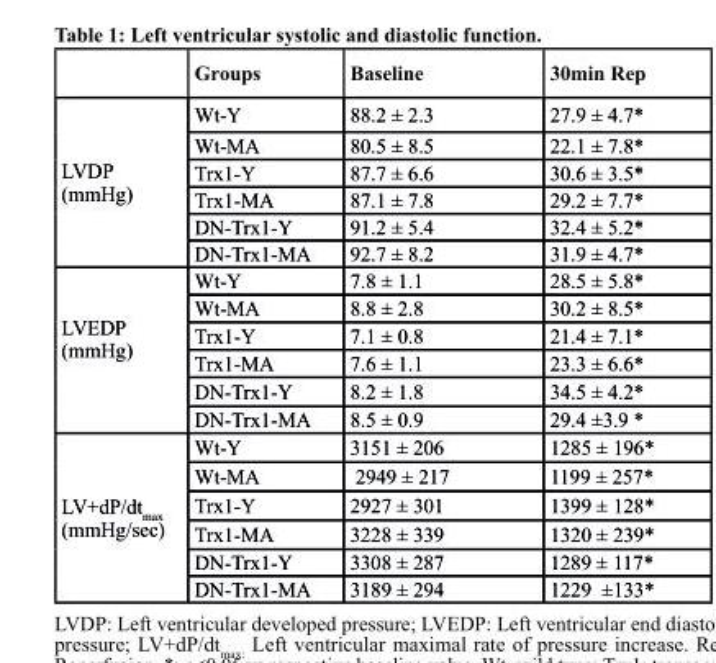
<table><thead><tr><td></td><td>Groups</td><td>baseline</td><td>30min rep</td></tr></thead><tbody><tr><td rowspan="6">LVDP (mmHg)</td><td>Wt-Y</td><td>88.2 ± 2.3</td><td>27.9 ± 4.7*</td></tr><tr><td>Wt-MA</td><td>80.5 ± 8.5</td><td>22.1 ± 7.8*</td></tr><tr><td>Trx1-Y</td><td>87.7 ± 6.6</td><td>30.6 ± 3.5*</td></tr><tr><td>Trx1-MA</td><td>87.1 ± 7.8</td><td>29.2 ± 7.7*</td></tr><tr><td>DN-Trx1-Y</td><td>91.2 ± 5.4</td><td>32.4 ± 5.2*</td></tr><tr><td>DN-Trx1-MA</td><td>92.7 ± 8.2</td><td>31.9 ± 4.7*</td></tr><tr><td rowspan="6">LVEDP (mmHg)</td><td>Wt-Y</td><td>7.8 ± 1.1</td><td>28.5 ± 5.8*</td></tr><tr><td>Wt-MA</td><td>8.8 ± 2.8</td><td>30.2 ± 8.5*</td></tr><tr><td>Trx1-Y</td><td>7.1 ± 0.8</td><td>21.4 ± 7.1*</td></tr><tr><td>Trx1-MA</td><td>7.6 ± 1.1</td><td>23.3 ± 6.6*</td></tr><tr><td>DN-Trx1-Y</td><td>8.2 ± 1.8</td><td>34.5 ± 4.2*</td></tr><tr><td>DN-Trx1-MA</td><td>8.5 ± 0.9</td><td>29.4 ±3.9 *</td></tr><tr><td rowspan="6">LV+dP/dt<sub>max</sub> (mmHg/sec)</td><td>Wt-Y</td><td>3151 ± 206</td><td>1285 ± 196*</td></tr><tr><td>Wt-MA</td><td>2949 ± 217</td><td>1199 ± 257*</td></tr><tr><td>Trx1-Y</td><td>2927 ± 301</td><td>1399 ± 128*</td></tr><tr><td>Trx1-MA</td><td>3228 ± 339</td><td>1320 ± 239*</td></tr><tr><td>DN-Trx1-Y</td><td>3308 ± 287</td><td>1289 ± 117*</td></tr><tr><td>DN-Trx1-MA</td><td>3189 ± 294</td><td>1229 ±133*</td></tr></tbody></table>